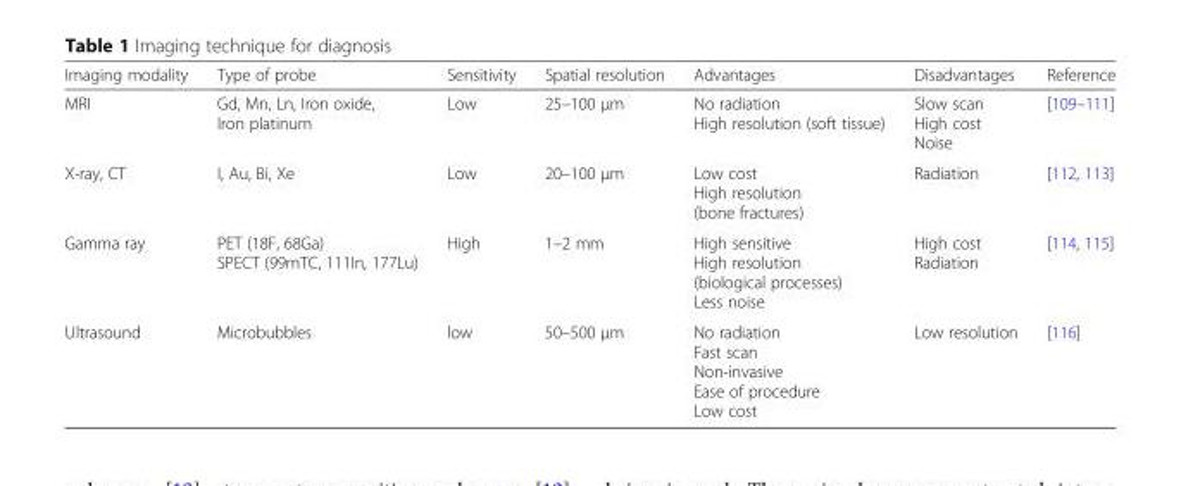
<table><thead><tr><td>Imaging modality</td><td>Type of probe</td><td>Sensitivity</td><td>Spatial resolution</td><td>Advantages</td><td>Disadvantages</td><td>Reference</td></tr></thead><tbody><tr><td>MRI</td><td>Gd, Mn, Ln, Iron oxide, Iron platinum</td><td>Low</td><td>25–100 μm</td><td>No radiation High resolution (soft tissue)</td><td>Slow scan High cost Noise</td><td>[109–111]</td></tr><tr><td>X-ray, CT</td><td>I, Au, Bi, Xe</td><td>Low</td><td>20–100 μm</td><td>Low cost High resolution (bone fractures)</td><td>Radiation</td><td>[112, 113]</td></tr><tr><td>Gamma ray</td><td>PET (18F, 68Ga) SPECT (99mTC, 111In, 177Lu)</td><td>High</td><td>1–2 mm</td><td>High sensitive High resolution (biological processes) Less noise</td><td>High cost Radiation</td><td>[114, 115]</td></tr><tr><td>Ultrasound</td><td>Microbubbles</td><td>low</td><td>50–500 μm</td><td>No radiation Fast scan Non-invasive Ease of procedure Low cost</td><td>Low resolution</td><td>[116]</td></tr></tbody></table>